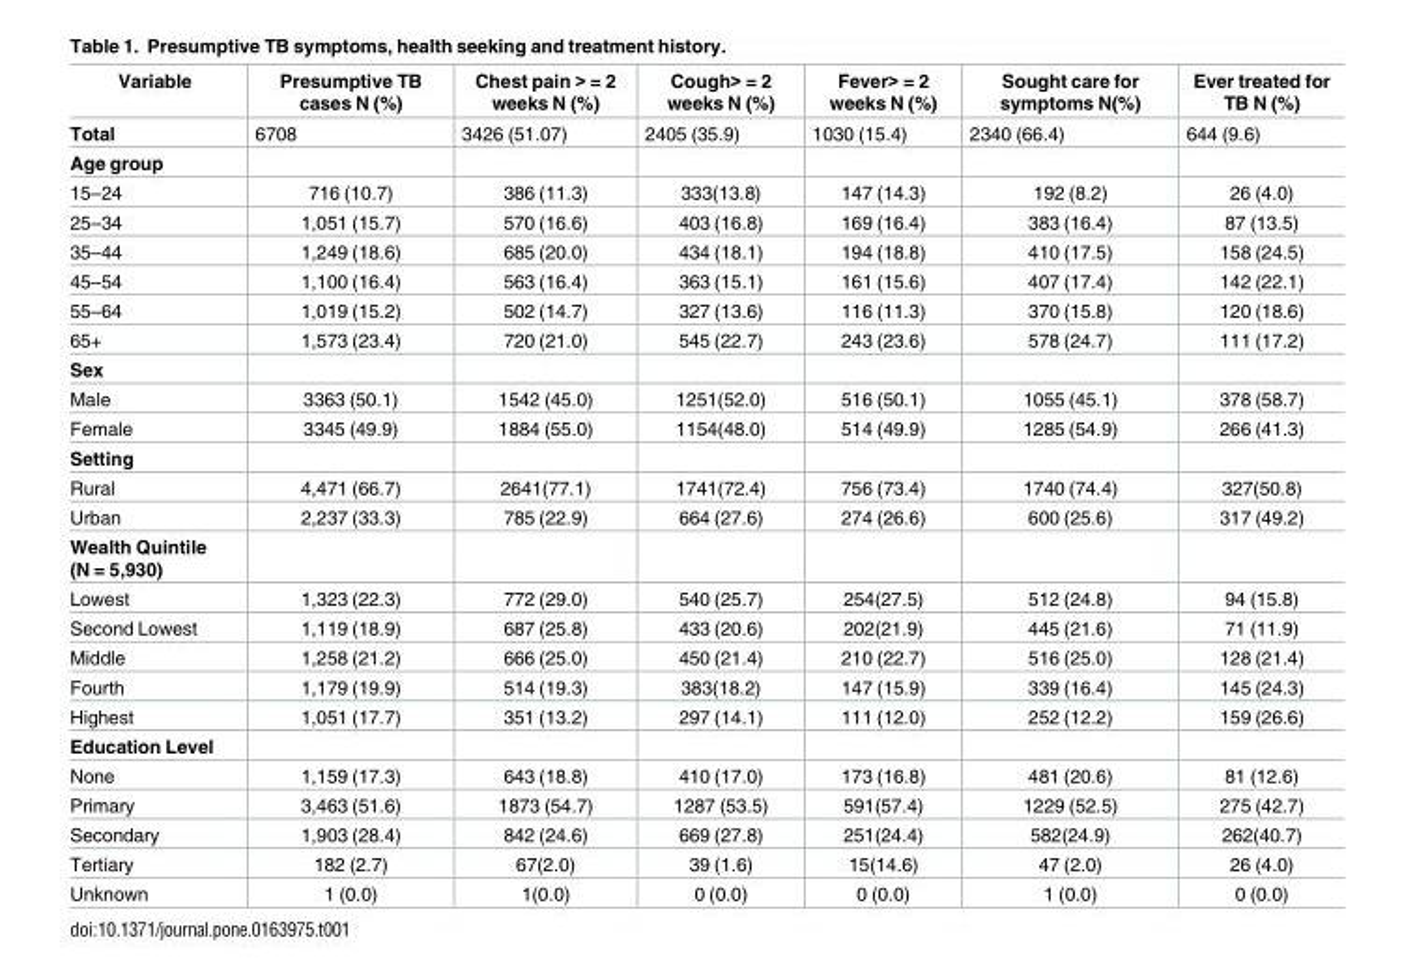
<table><thead><tr><td>Variable</td><td>Presumptive TB cases N (%)</td><td>Chest pain &gt; = 2 weeks N (%)</td><td>Cough&gt; = 2 weeks N (%)</td><td>Fever&gt; = 2 weeks N (%)</td><td>Sought care for symptoms N(%)</td><td>Ever treated for TB N (%)</td></tr></thead><tbody><tr><td>Total</td><td>6708</td><td>3426 (51.07)</td><td>2405 (35.9)</td><td>1030 (15.4)</td><td>2340 (66.4)</td><td>644 (9.6)</td></tr><tr><td colspan="7">Age group</td></tr><tr><td>15–24</td><td>716 (10.7)</td><td>386 (11.3)</td><td>333(13.8)</td><td>147 (14.3)</td><td>192 (8.2)</td><td>26 (4.0)</td></tr><tr><td>25–34</td><td>1,051 (15.7)</td><td>570 (16.6)</td><td>403 (16.8)</td><td>169 (16.4)</td><td>383 (16.4)</td><td>87 (13.5)</td></tr><tr><td>35–44</td><td>1,249 (18.6)</td><td>685 (20.0)</td><td>434 (18.1)</td><td>194 (18.8)</td><td>410 (17.5)</td><td>158 (24.5)</td></tr><tr><td>45–54</td><td>1,100 (16.4)</td><td>563 (16.4)</td><td>363 (15.1)</td><td>161 (15.6)</td><td>407 (17.4)</td><td>142 (22.1)</td></tr><tr><td>55–64</td><td>1,019 (15.2)</td><td>502 (14.7)</td><td>327 (13.6)</td><td>116 (11.3)</td><td>370 (15.8)</td><td>120 (18.6)</td></tr><tr><td>65+</td><td>1,573 (23.4)</td><td>720 (21.0)</td><td>545 (22.7)</td><td>243 (23.6)</td><td>578 (24.7)</td><td>111 (17.2)</td></tr><tr><td colspan="7">Sex</td></tr><tr><td>Male</td><td>3363 (50.1)</td><td>1542 (45.0)</td><td>1251(52.0)</td><td>516 (50.1)</td><td>1055 (45.1)</td><td>378 (58.7)</td></tr><tr><td>Female</td><td>3345 (49.9)</td><td>1884 (55.0)</td><td>1154(48.0)</td><td>514 (49.9)</td><td>1285 (54.9)</td><td>266 (41.3)</td></tr><tr><td colspan="7">Setting</td></tr><tr><td>Rural</td><td>4,471 (66.7)</td><td>2641(77.1)</td><td>1741(72.4)</td><td>756 (73.4)</td><td>1740 (74.4)</td><td>327(50.8)</td></tr><tr><td>Urban</td><td>2,237 (33.3)</td><td>785 (22.9)</td><td>664 (27.6)</td><td>274 (26.6)</td><td>600 (25.6)</td><td>317 (49.2)</td></tr><tr><td colspan="7">Wealth Quintile (N = 5,930)</td></tr><tr><td>Lowest</td><td>1,323 (22.3)</td><td>772 (29.0)</td><td>540 (25.7)</td><td>254(27.5)</td><td>512 (24.8)</td><td>94 (15.8)</td></tr><tr><td>Second Lowest</td><td>1,119 (18.9)</td><td>687 (25.8)</td><td>433 (20.6)</td><td>202(21.9)</td><td>445 (21.6)</td><td>71 (11.9)</td></tr><tr><td>Middle</td><td>1,258 (21.2)</td><td>666 (25.0)</td><td>450 (21.4)</td><td>210 (22.7)</td><td>516 (25.0)</td><td>128 (21.4)</td></tr><tr><td>Fourth</td><td>1,179 (19.9)</td><td>514 (19.3)</td><td>383(18.2)</td><td>147 (15.9)</td><td>339 (16.4)</td><td>145 (24.3)</td></tr><tr><td>Highest</td><td>1,051 (17.7)</td><td>351 (13.2)</td><td>297 (14.1)</td><td>111 (12.0)</td><td>252 (12.2)</td><td>159 (26.6)</td></tr><tr><td colspan="7">Education Level</td></tr><tr><td>None</td><td>1,159 (17.3)</td><td>643 (18.8)</td><td>410 (17.0)</td><td>173 (16.8)</td><td>481 (20.6)</td><td>81 (12.6)</td></tr><tr><td>Primary</td><td>3,463 (51.6)</td><td>1873 (54.7)</td><td>1287 (53.5)</td><td>591(57.4)</td><td>1229 (52.5)</td><td>275 (42.7)</td></tr><tr><td>Secondary</td><td>1,903 (28.4)</td><td>842 (24.6)</td><td>669 (27.8)</td><td>251(24.4)</td><td>582(24.9)</td><td>262(40.7)</td></tr><tr><td>Tertiary</td><td>182 (2.7)</td><td>67(2.0)</td><td>39 (1.6)</td><td>15(14.6)</td><td>47 (2.0)</td><td>26 (4.0)</td></tr><tr><td>Unknown</td><td>1 (0.0)</td><td>1(0.0)</td><td>0 (0.0)</td><td>0 (0.0)</td><td>1 (0.0)</td><td>0 (0.0)</td></tr></tbody></table>